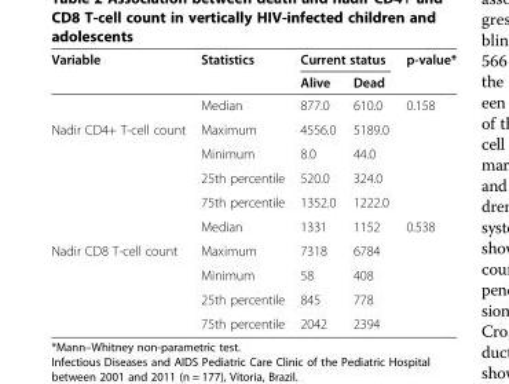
<table><thead><tr><td rowspan="2">Variable</td><td rowspan="2">Statistics</td><td colspan="2">Current status</td><td rowspan="2">p-value*</td></tr><tr><td>Alive</td><td>Dead</td></tr></thead><tbody><tr><td></td><td>Median</td><td>877.0</td><td>610.0</td><td>0.158</td></tr><tr><td rowspan="5">Nadir CD4+ T-cell count</td><td>Maximum</td><td>4556.0</td><td>5189.0</td><td></td></tr><tr><td>Minimum</td><td>8.0</td><td>44.0</td><td></td></tr><tr><td>25th percentile</td><td>520.0</td><td>324.0</td><td></td></tr><tr><td>75th percentile</td><td>1352.0</td><td>1222.0</td><td></td></tr><tr><td>Median</td><td>1331</td><td>1152</td><td>0.538</td></tr><tr><td rowspan="4">Nadir CD8 T-cell count</td><td>Maximum</td><td>7318</td><td>6784</td><td></td></tr><tr><td>Minimum</td><td>58</td><td>408</td><td></td></tr><tr><td>25th percentile</td><td>845</td><td>778</td><td></td></tr><tr><td>75th percentile</td><td>2042</td><td>2394</td><td></td></tr></tbody></table>